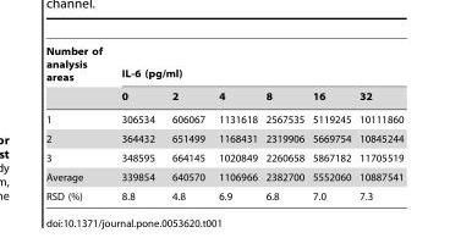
<table><thead><tr><td rowspan="2">Number of analysis areas</td><td colspan="6">IL-6 (pg/ml)</td></tr><tr><td>0</td><td>2</td><td>4</td><td>8</td><td>16</td><td>32</td></tr></thead><tbody><tr><td>1</td><td>306534</td><td>606067</td><td>1131618</td><td>2567535</td><td>5119245</td><td>10111860</td></tr><tr><td>2</td><td>364432</td><td>651499</td><td>1168431</td><td>2319906</td><td>5669754</td><td>10845244</td></tr><tr><td>3</td><td>348595</td><td>664145</td><td>1020849</td><td>2260658</td><td>5867182</td><td>11705519</td></tr><tr><td>Average</td><td>339854</td><td>640570</td><td>1106966</td><td>2382700</td><td>5552060</td><td>10887541</td></tr><tr><td>RSD (%)</td><td>8.8</td><td>4.8</td><td>6.9</td><td>6.8</td><td>7.0</td><td>7.3</td></tr></tbody></table>